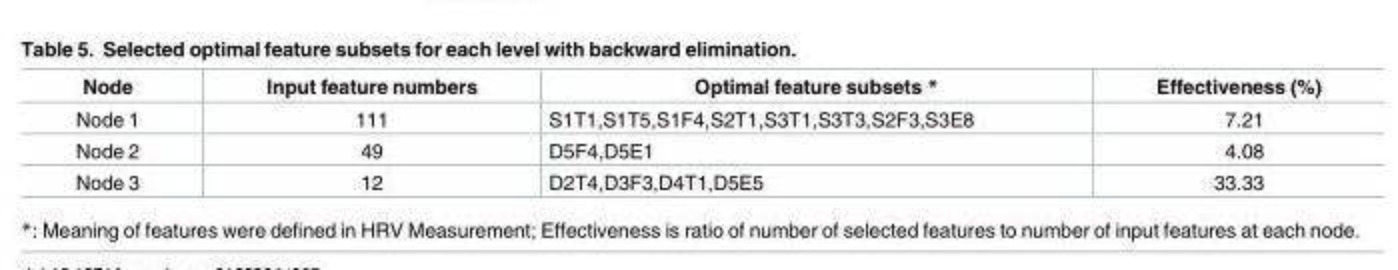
<table><thead><tr><td>Node</td><td>Input feature numbers</td><td>Optimal feature subsets *</td><td>Effectiveness (%)</td></tr></thead><tbody><tr><td>Node 1</td><td>111</td><td>S1T1,S1T5,S1F4,S2T1,S3T1,S3T3,S2F3,S3E8</td><td>7.21</td></tr><tr><td>Node 2</td><td>49</td><td>D5F4,D5E1</td><td>4.08</td></tr><tr><td>Node 3</td><td>12</td><td>D2T4,D3F3,D4T1,D5E5</td><td>33.33</td></tr></tbody></table>